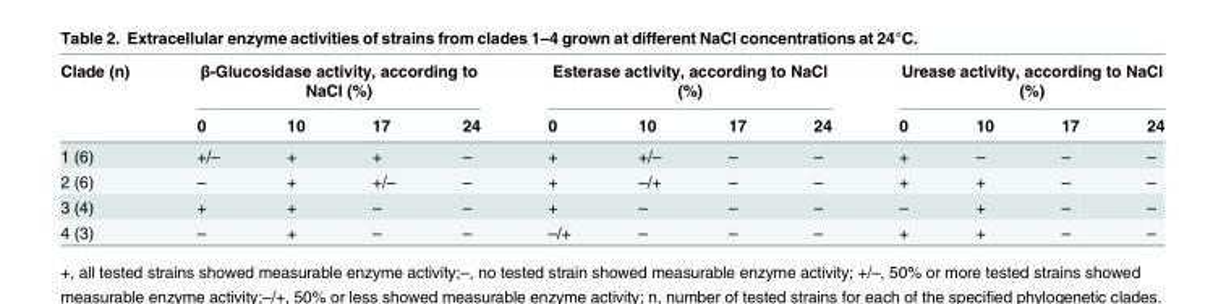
<table><thead><tr><td rowspan="2">Clade (n)</td><td colspan="4">β-Glucosidase activity, according to NaCl (%)</td><td colspan="4">Esterase activity, according to NaCl (%)</td><td colspan="4">Urease activity, according to NaCl (%)</td></tr><tr><td>0</td><td>10</td><td>17</td><td>24</td><td>0</td><td>10</td><td>17</td><td>24</td><td>0</td><td>10</td><td>17</td><td>24</td></tr></thead><tbody><tr><td>1 (6)</td><td>+/–</td><td>+</td><td>+</td><td>–</td><td>+</td><td>+/–</td><td>–</td><td>–</td><td>+</td><td>–</td><td>–</td><td>–</td></tr><tr><td>2 (6)</td><td>–</td><td>+</td><td>+/–</td><td>–</td><td>+</td><td>–/+</td><td>–</td><td>–</td><td>+</td><td>+</td><td>–</td><td>–</td></tr><tr><td>3 (4)</td><td>+</td><td>+</td><td>–</td><td>–</td><td>+</td><td>–</td><td>–</td><td>–</td><td>–</td><td>+</td><td>–</td><td>–</td></tr><tr><td>4 (3)</td><td>–</td><td>+</td><td>–</td><td>–</td><td>–/+</td><td>–</td><td>–</td><td>–</td><td>+</td><td>+</td><td>–</td><td>–</td></tr></tbody></table>